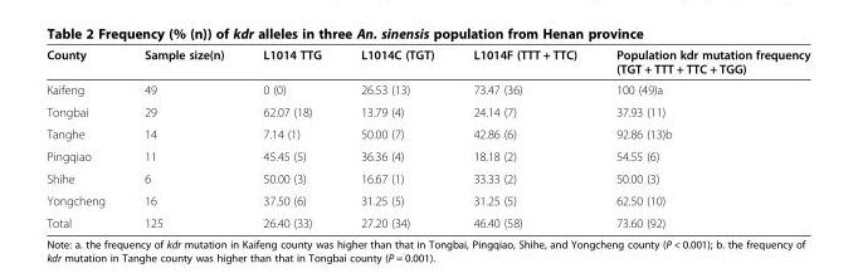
<table><thead><tr><td>County</td><td>Sample size(n)</td><td>L1014 TTG</td><td>L1014C (TGT)</td><td>L1014F (TTT + TTC)</td><td>Population kdr mutation frequency (TGT + TTT + TTC + TGG)</td></tr></thead><tbody><tr><td>Kaifeng</td><td>49</td><td>0 (0)</td><td>26.53 (13)</td><td>73.47 (36)</td><td>100 (49)a</td></tr><tr><td>Tongbai</td><td>29</td><td>62.07 (18)</td><td>13.79 (4)</td><td>24.14 (7)</td><td>37.93 (11)</td></tr><tr><td>Tanghe</td><td>14</td><td>7.14 (1)</td><td>50.00 (7)</td><td>42.86 (6)</td><td>92.86 (13)b</td></tr><tr><td>Pingqiao</td><td>11</td><td>45.45 (5)</td><td>36.36 (4)</td><td>18.18 (2)</td><td>54.55 (6)</td></tr><tr><td>Shihe</td><td>6</td><td>50.00 (3)</td><td>16.67 (1)</td><td>33.33 (2)</td><td>50.00 (3)</td></tr><tr><td>Yongcheng</td><td>16</td><td>37.50 (6)</td><td>31.25 (5)</td><td>31.25 (5)</td><td>62.50 (10)</td></tr><tr><td>Total</td><td>125</td><td>26.40 (33)</td><td>27.20 (34)</td><td>46.40 (58)</td><td>73.60 (92)</td></tr></tbody></table>